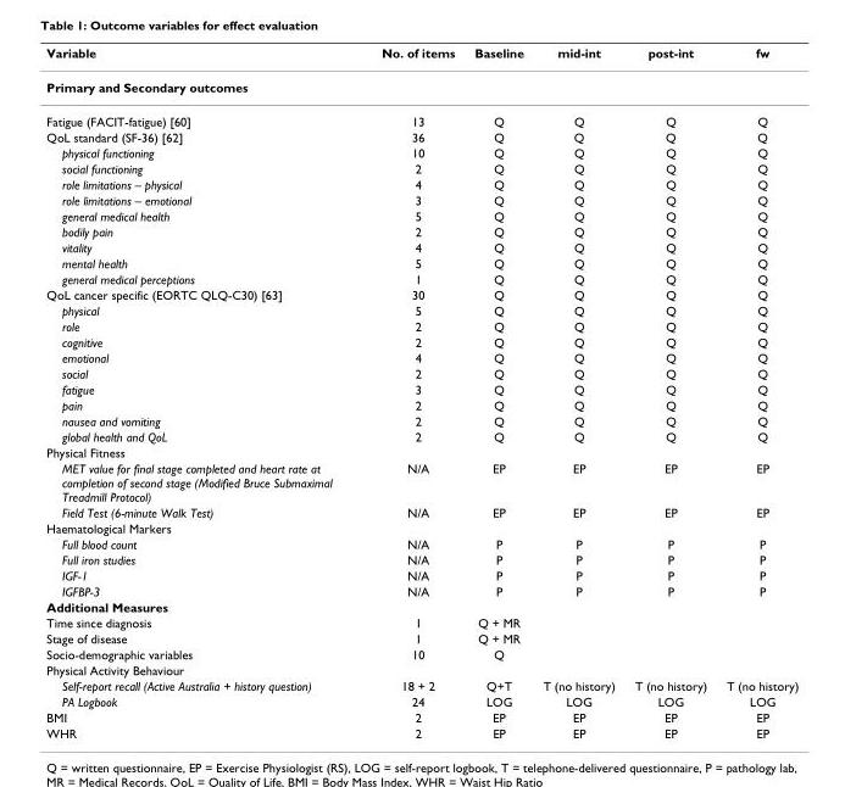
<table><thead><tr><td>Variable</td><td>No. of items</td><td>Baseline</td><td>mid-int</td><td>post-int</td><td>fw</td></tr></thead><tbody><tr><td colspan="6">Primary and Secondary outcomes</td></tr><tr><td>Fatigue (FACIT-fatigue) [60]</td><td>13</td><td>Q</td><td>Q</td><td>Q</td><td>Q</td></tr><tr><td>QoL standard (SF-36) [62]</td><td>36</td><td>Q</td><td>Q</td><td>Q</td><td>Q</td></tr><tr><td>physical functioning</td><td>10</td><td>Q</td><td>Q</td><td>Q</td><td>Q</td></tr><tr><td>social functioning</td><td>2</td><td>Q</td><td>Q</td><td>Q</td><td>Q</td></tr><tr><td>role limitations – physical</td><td>4</td><td>Q</td><td>Q</td><td>Q</td><td>Q</td></tr><tr><td>role limitations – emotional</td><td>3</td><td>Q</td><td>Q</td><td>Q</td><td>Q</td></tr><tr><td>general medical health</td><td>5</td><td>Q</td><td>Q</td><td>Q</td><td>Q</td></tr><tr><td>bodily pain</td><td>2</td><td>Q</td><td>Q</td><td>Q</td><td>Q</td></tr><tr><td>vitality</td><td>4</td><td>Q</td><td>Q</td><td>Q</td><td>Q</td></tr><tr><td>mental health</td><td>5</td><td>Q</td><td>Q</td><td>Q</td><td>Q</td></tr><tr><td>general medical perceptions</td><td>1</td><td>Q</td><td>Q</td><td>Q</td><td>Q</td></tr><tr><td>QoL cancer specific (EORTC QLQ-C30) [63]</td><td>30</td><td>Q</td><td>Q</td><td>Q</td><td>Q</td></tr><tr><td>physical</td><td>5</td><td>Q</td><td>Q</td><td>Q</td><td>Q</td></tr><tr><td>role</td><td>2</td><td>Q</td><td>Q</td><td>Q</td><td>Q</td></tr><tr><td>cognitive</td><td>2</td><td>Q</td><td>Q</td><td>Q</td><td>Q</td></tr><tr><td>emotional</td><td>4</td><td>Q</td><td>Q</td><td>Q</td><td>Q</td></tr><tr><td>social</td><td>2</td><td>Q</td><td>Q</td><td>Q</td><td>Q</td></tr><tr><td>fatigue</td><td>3</td><td>Q</td><td>Q</td><td>Q</td><td>Q</td></tr><tr><td>pain</td><td>2</td><td>Q</td><td>Q</td><td>Q</td><td>Q</td></tr><tr><td>nausea and vomiting</td><td>2</td><td>Q</td><td>Q</td><td>Q</td><td>Q</td></tr><tr><td>global health and QoL</td><td>2</td><td>Q</td><td>Q</td><td>Q</td><td>Q</td></tr><tr><td colspan="6">Physical Fitness</td></tr><tr><td>MET value for final stage completed and heart rate at completion of second stage (Modified Bruce Submaximal Treadmill Protocol)</td><td>N/A</td><td>EP</td><td>EP</td><td>EP</td><td>EP</td></tr><tr><td>Field Test (6-minute Walk Test)</td><td>N/A</td><td>EP</td><td>EP</td><td>EP</td><td>EP</td></tr><tr><td colspan="6">Haematological Markers</td></tr><tr><td>Full blood count</td><td>N/A</td><td>P</td><td>P</td><td>P</td><td>P</td></tr><tr><td>Full iron studies</td><td>N/A</td><td>P</td><td>P</td><td>P</td><td>P</td></tr><tr><td>IGF-1</td><td>N/A</td><td>P</td><td>P</td><td>P</td><td>P</td></tr><tr><td>IGFBP-3</td><td>N/A</td><td>P</td><td>P</td><td>P</td><td>P</td></tr><tr><td colspan="6">Additional Measures</td></tr><tr><td>Time since diagnosis</td><td>1</td><td>Q + MR</td><td></td><td></td><td></td></tr><tr><td>Stage of disease</td><td>1</td><td>Q + MR</td><td></td><td></td><td></td></tr><tr><td>Socio-demographic variables</td><td>10</td><td>Q</td><td></td><td></td><td></td></tr><tr><td colspan="6">Physical Activity Behaviour</td></tr><tr><td>Self-report recall (Active Australia + history question)</td><td>18 + 2</td><td>Q+T</td><td>T (no history)</td><td>T (no history)</td><td>T (no history)</td></tr><tr><td>PA Logbook</td><td>24</td><td>LOG</td><td>LOG</td><td>LOG</td><td>LOG</td></tr><tr><td>BMI</td><td>2</td><td>EP</td><td>EP</td><td>EP</td><td>EP</td></tr><tr><td>WHR</td><td>2</td><td>EP</td><td>EP</td><td>EP</td><td>EP</td></tr></tbody></table>